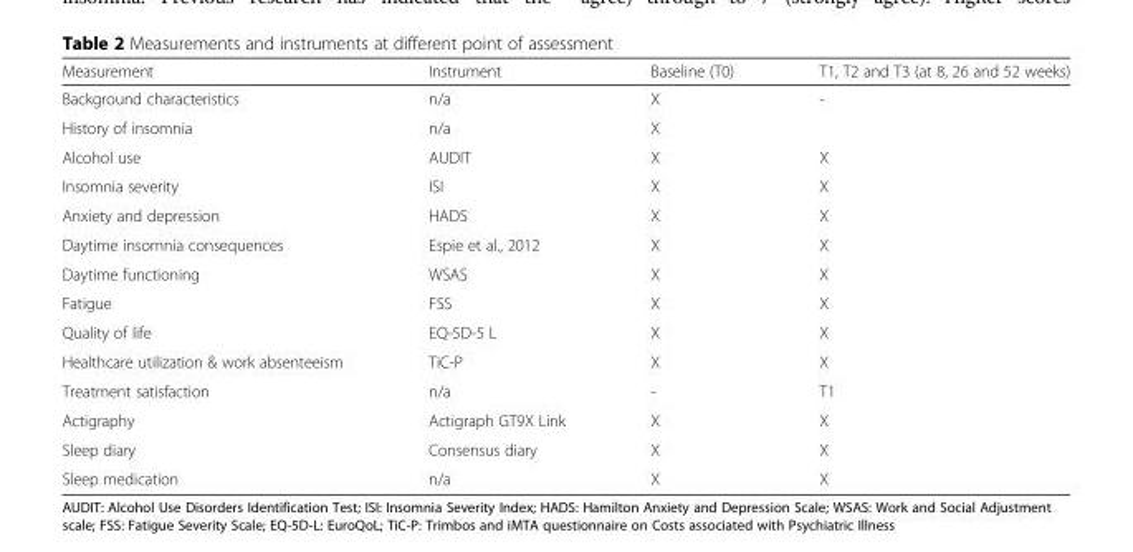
<table><thead><tr><td>Measurement</td><td>Instrument</td><td>Baseline (T0)</td><td>T1, T2 and T3 (at 8, 26 and 52 weeks)</td></tr></thead><tbody><tr><td>Background characteristics</td><td>n/a</td><td>X</td><td>-</td></tr><tr><td>History of insomnia</td><td>n/a</td><td>X</td><td></td></tr><tr><td>Alcohol use</td><td>AUDIT</td><td>X</td><td>X</td></tr><tr><td>Insomnia severity</td><td>ISI</td><td>X</td><td>X</td></tr><tr><td>Anxiety and depression</td><td>HADS</td><td>X</td><td>X</td></tr><tr><td>Daytime insomnia consequences</td><td>Espie et al., 2012</td><td>X</td><td>X</td></tr><tr><td>Daytime functioning</td><td>WSAS</td><td>X</td><td>X</td></tr><tr><td>Fatigue</td><td>FSS</td><td>X</td><td>X</td></tr><tr><td>Quality of life</td><td>EQ-5D-5 L</td><td>X</td><td>X</td></tr><tr><td>Healthcare utilization &amp; work absenteeism</td><td>TiC-P</td><td>X</td><td>X</td></tr><tr><td>Treatment satisfaction</td><td>n/a</td><td>-</td><td>T1</td></tr><tr><td>Actigraphy</td><td>Actigraph GT9X Link</td><td>X</td><td>X</td></tr><tr><td>Sleep diary</td><td>Consensus diary</td><td>X</td><td>X</td></tr><tr><td>Sleep medication</td><td>n/a</td><td>X</td><td>X</td></tr></tbody></table>